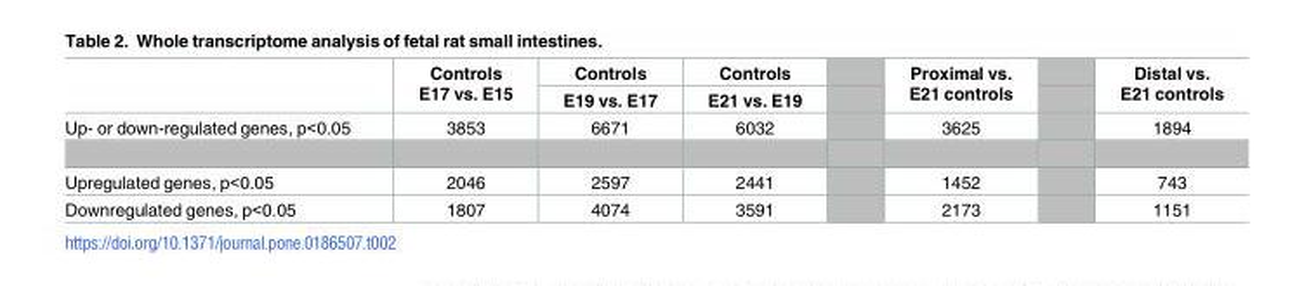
<table><thead><tr><td rowspan="2"></td><td rowspan="2">Controls E17 vs. E15</td><td rowspan="2">Controls E19 vs. E17</td><td rowspan="2">Controls E21 vs. E19</td><td rowspan="2">Proximal vs. E21 controls</td><td rowspan="2">Distal vs. E21 controls</td></tr><tr></tr></thead><tbody><tr><td>Up- or down-regulated genes, p&lt;0.05</td><td>3853</td><td>6671</td><td>6032</td><td>3625</td><td>1894</td></tr><tr><td>Upregulated genes, p&lt;0.05</td><td>2046</td><td>2597</td><td>2441</td><td>1452</td><td>743</td></tr><tr><td>Downregulated genes, p&lt;0.05</td><td>1807</td><td>4074</td><td>3591</td><td>2173</td><td>1151</td></tr></tbody></table>